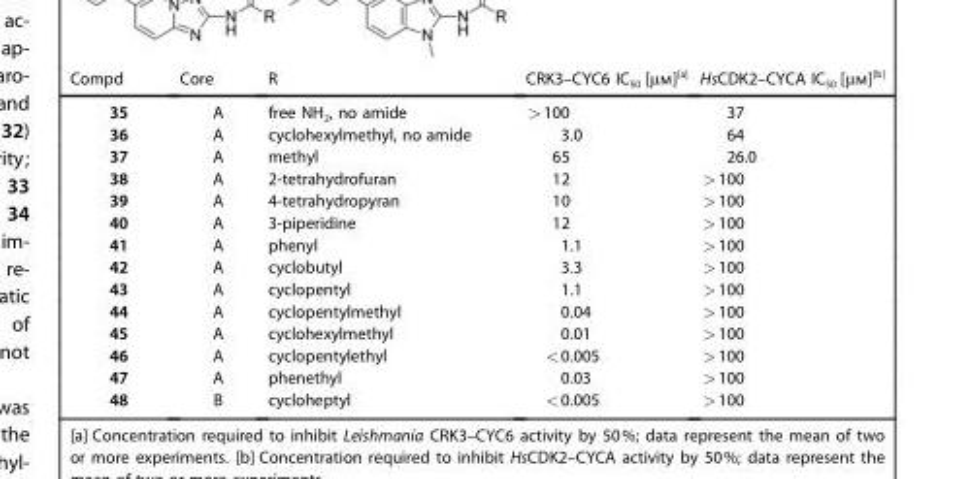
<table><thead><tr><td>Compd</td><td>Core</td><td>R</td><td>CRK3–CYC6 IC<sub>50</sub> [μm][a]</td><td>HsCDK2–CYCA IC<sub>50</sub> [μm][b]</td></tr></thead><tbody><tr><td>35</td><td>A</td><td>free NH<sub>2</sub>, no amide</td><td>&gt;100</td><td>37</td></tr><tr><td>36</td><td>A</td><td>cyclohexylmethyl, no amide</td><td>3.0</td><td>64</td></tr><tr><td>37</td><td>A</td><td>methyl</td><td>65</td><td>26.0</td></tr><tr><td>38</td><td>A</td><td>2-tetrahydrofuran</td><td>12</td><td>&gt;100</td></tr><tr><td>39</td><td>A</td><td>4-tetrahydropyran</td><td>10</td><td>&gt;100</td></tr><tr><td>40</td><td>A</td><td>3-piperidine</td><td>12</td><td>&gt;100</td></tr><tr><td>41</td><td>A</td><td>phenyl</td><td>1.1</td><td>&gt;100</td></tr><tr><td>42</td><td>A</td><td>cyclobutyl</td><td>3.3</td><td>&gt;100</td></tr><tr><td>43</td><td>A</td><td>cyclopentyl</td><td>1.1</td><td>&gt;100</td></tr><tr><td>44</td><td>A</td><td>cyclopentylmethyl</td><td>0.04</td><td>&gt;100</td></tr><tr><td>45</td><td>A</td><td>cyclohexylmethyl</td><td>0.01</td><td>&gt;100</td></tr><tr><td>46</td><td>A</td><td>cyclopentylethyl</td><td>&lt;0.005</td><td>&gt;100</td></tr><tr><td>47</td><td>A</td><td>phenethyl</td><td>0.03</td><td>&gt;100</td></tr><tr><td>48</td><td>B</td><td>cycloheptyl</td><td>&lt;0.005</td><td>&gt;100</td></tr></tbody></table>